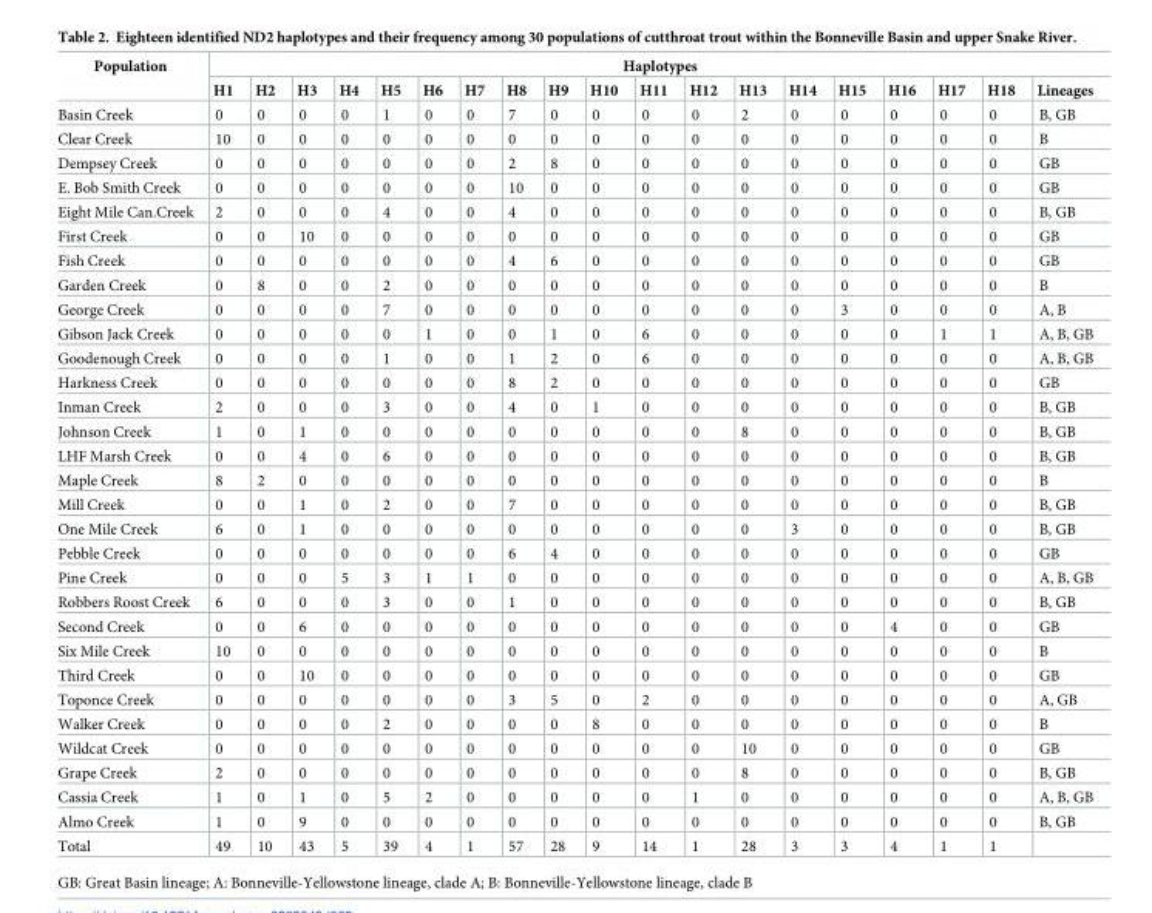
<table><thead><tr><td rowspan="2">Population</td><td colspan="19">Haplotypes</td></tr><tr><td>H1</td><td>H2</td><td>H3</td><td>H4</td><td>H5</td><td>H6</td><td>H7</td><td>H8</td><td>H9</td><td>H10</td><td>H11</td><td>H12</td><td>H13</td><td>H14</td><td>H15</td><td>H16</td><td>H17</td><td>H18</td><td>Lineages</td></tr></thead><tbody><tr><td>Basin Creek</td><td>0</td><td>0</td><td>0</td><td>0</td><td>1</td><td>0</td><td>0</td><td>7</td><td>0</td><td>0</td><td>0</td><td>0</td><td>2</td><td>0</td><td>0</td><td>0</td><td>0</td><td>0</td><td>B, GB</td></tr><tr><td>Clear Creek</td><td>10</td><td>0</td><td>0</td><td>0</td><td>0</td><td>0</td><td>0</td><td>0</td><td>0</td><td>0</td><td>0</td><td>0</td><td>0</td><td>0</td><td>0</td><td>0</td><td>0</td><td>0</td><td>B</td></tr><tr><td>Dempsey Creek</td><td>0</td><td>0</td><td>0</td><td>0</td><td>0</td><td>0</td><td>0</td><td>2</td><td>8</td><td>0</td><td>0</td><td>0</td><td>0</td><td>0</td><td>0</td><td>0</td><td>0</td><td>0</td><td>GB</td></tr><tr><td>E. Bob Smith Creek</td><td>0</td><td>0</td><td>0</td><td>0</td><td>0</td><td>0</td><td>0</td><td>10</td><td>0</td><td>0</td><td>0</td><td>0</td><td>0</td><td>0</td><td>0</td><td>0</td><td>0</td><td>0</td><td>GB</td></tr><tr><td>Eight Mile Can.Creek</td><td>2</td><td>0</td><td>0</td><td>0</td><td>4</td><td>0</td><td>0</td><td>4</td><td>0</td><td>0</td><td>0</td><td>0</td><td>0</td><td>0</td><td>0</td><td>0</td><td>0</td><td>0</td><td>B, GB</td></tr><tr><td>First Creek</td><td>0</td><td>0</td><td>10</td><td>0</td><td>0</td><td>0</td><td>0</td><td>0</td><td>0</td><td>0</td><td>0</td><td>0</td><td>0</td><td>0</td><td>0</td><td>0</td><td>0</td><td>0</td><td>GB</td></tr><tr><td>Fish Creek</td><td>0</td><td>0</td><td>0</td><td>0</td><td>0</td><td>0</td><td>0</td><td>4</td><td>6</td><td>0</td><td>0</td><td>0</td><td>0</td><td>0</td><td>0</td><td>0</td><td>0</td><td>0</td><td>GB</td></tr><tr><td>Garden Creek</td><td>0</td><td>8</td><td>0</td><td>0</td><td>2</td><td>0</td><td>0</td><td>0</td><td>0</td><td>0</td><td>0</td><td>0</td><td>0</td><td>0</td><td>0</td><td>0</td><td>0</td><td>0</td><td>B</td></tr><tr><td>George Creek</td><td>0</td><td>0</td><td>0</td><td>0</td><td>7</td><td>0</td><td>0</td><td>0</td><td>0</td><td>0</td><td>0</td><td>0</td><td>0</td><td>0</td><td>3</td><td>0</td><td>0</td><td>0</td><td>A, B</td></tr><tr><td>Gibson Jack Creek</td><td>0</td><td>0</td><td>0</td><td>0</td><td>0</td><td>1</td><td>0</td><td>0</td><td>1</td><td>0</td><td>6</td><td>0</td><td>0</td><td>0</td><td>0</td><td>0</td><td>1</td><td>1</td><td>A, B, GB</td></tr><tr><td>Goodenough Creek</td><td>0</td><td>0</td><td>0</td><td>0</td><td>1</td><td>0</td><td>0</td><td>1</td><td>2</td><td>0</td><td>6</td><td>0</td><td>0</td><td>0</td><td>0</td><td>0</td><td>0</td><td>0</td><td>A, B, GB</td></tr><tr><td>Harkness Creek</td><td>0</td><td>0</td><td>0</td><td>0</td><td>0</td><td>0</td><td>0</td><td>8</td><td>2</td><td>0</td><td>0</td><td>0</td><td>0</td><td>0</td><td>0</td><td>0</td><td>0</td><td>0</td><td>GB</td></tr><tr><td>Inman Creek</td><td>2</td><td>0</td><td>0</td><td>0</td><td>3</td><td>0</td><td>0</td><td>4</td><td>0</td><td>1</td><td>0</td><td>0</td><td>0</td><td>0</td><td>0</td><td>0</td><td>0</td><td>0</td><td>B, GB</td></tr><tr><td>Johnson Creek</td><td>1</td><td>0</td><td>1</td><td>0</td><td>0</td><td>0</td><td>0</td><td>0</td><td>0</td><td>0</td><td>0</td><td>0</td><td>8</td><td>0</td><td>0</td><td>0</td><td>0</td><td>0</td><td>B, GB</td></tr><tr><td>LHF Marsh Creek</td><td>0</td><td>0</td><td>4</td><td>0</td><td>6</td><td>0</td><td>0</td><td>0</td><td>0</td><td>0</td><td>0</td><td>0</td><td>0</td><td>0</td><td>0</td><td>0</td><td>0</td><td>0</td><td>B, GB</td></tr><tr><td>Maple Creek</td><td>8</td><td>2</td><td>0</td><td>0</td><td>0</td><td>0</td><td>0</td><td>0</td><td>0</td><td>0</td><td>0</td><td>0</td><td>0</td><td>0</td><td>0</td><td>0</td><td>0</td><td>0</td><td>B</td></tr><tr><td>Mill Creek</td><td>0</td><td>0</td><td>1</td><td>0</td><td>2</td><td>0</td><td>0</td><td>7</td><td>0</td><td>0</td><td>0</td><td>0</td><td>0</td><td>0</td><td>0</td><td>0</td><td>0</td><td>0</td><td>B, GB</td></tr><tr><td>One Mile Creek</td><td>6</td><td>0</td><td>1</td><td>0</td><td>0</td><td>0</td><td>0</td><td>0</td><td>0</td><td>0</td><td>0</td><td>0</td><td>0</td><td>3</td><td>0</td><td>0</td><td>0</td><td>0</td><td>B, GB</td></tr><tr><td>Pebble Creek</td><td>0</td><td>0</td><td>0</td><td>0</td><td>0</td><td>0</td><td>0</td><td>6</td><td>4</td><td>0</td><td>0</td><td>0</td><td>0</td><td>0</td><td>0</td><td>0</td><td>0</td><td>0</td><td>GB</td></tr><tr><td>Pine Creek</td><td>0</td><td>0</td><td>0</td><td>5</td><td>3</td><td>1</td><td>1</td><td>0</td><td>0</td><td>0</td><td>0</td><td>0</td><td>0</td><td>0</td><td>0</td><td>0</td><td>0</td><td>0</td><td>A, B, GB</td></tr><tr><td>Robbers Roost Creek</td><td>6</td><td>0</td><td>0</td><td>0</td><td>3</td><td>0</td><td>0</td><td>1</td><td>0</td><td>0</td><td>0</td><td>0</td><td>0</td><td>0</td><td>0</td><td>0</td><td>0</td><td>0</td><td>B, GB</td></tr><tr><td>Second Creek</td><td>0</td><td>0</td><td>6</td><td>0</td><td>0</td><td>0</td><td>0</td><td>0</td><td>0</td><td>0</td><td>0</td><td>0</td><td>0</td><td>0</td><td>0</td><td>4</td><td>0</td><td>0</td><td>GB</td></tr><tr><td>Six Mile Creek</td><td>10</td><td>0</td><td>0</td><td>0</td><td>0</td><td>0</td><td>0</td><td>0</td><td>0</td><td>0</td><td>0</td><td>0</td><td>0</td><td>0</td><td>0</td><td>0</td><td>0</td><td>0</td><td>B</td></tr><tr><td>Third Creek</td><td>0</td><td>0</td><td>10</td><td>0</td><td>0</td><td>0</td><td>0</td><td>0</td><td>0</td><td>0</td><td>0</td><td>0</td><td>0</td><td>0</td><td>0</td><td>0</td><td>0</td><td>0</td><td>GB</td></tr><tr><td>Toponce Creek</td><td>0</td><td>0</td><td>0</td><td>0</td><td>0</td><td>0</td><td>0</td><td>3</td><td>5</td><td>0</td><td>2</td><td>0</td><td>0</td><td>0</td><td>0</td><td>0</td><td>0</td><td>0</td><td>A, GB</td></tr><tr><td>Walker Creek</td><td>0</td><td>0</td><td>0</td><td>0</td><td>2</td><td>0</td><td>0</td><td>0</td><td>0</td><td>8</td><td>0</td><td>0</td><td>0</td><td>0</td><td>0</td><td>0</td><td>0</td><td>0</td><td>B</td></tr><tr><td>Wildcat Creek</td><td>0</td><td>0</td><td>0</td><td>0</td><td>0</td><td>0</td><td>0</td><td>0</td><td>0</td><td>0</td><td>0</td><td>0</td><td>10</td><td>0</td><td>0</td><td>0</td><td>0</td><td>0</td><td>GB</td></tr><tr><td>Grape Creek</td><td>2</td><td>0</td><td>0</td><td>0</td><td>0</td><td>0</td><td>0</td><td>0</td><td>0</td><td>0</td><td>0</td><td>0</td><td>8</td><td>0</td><td>0</td><td>0</td><td>0</td><td>0</td><td>B, GB</td></tr><tr><td>Cassia Creek</td><td>1</td><td>0</td><td>1</td><td>0</td><td>5</td><td>2</td><td>0</td><td>0</td><td>0</td><td>0</td><td>0</td><td>1</td><td>0</td><td>0</td><td>0</td><td>0</td><td>0</td><td>0</td><td>A, B, GB</td></tr><tr><td>Almo Creek</td><td>1</td><td>0</td><td>9</td><td>0</td><td>0</td><td>0</td><td>0</td><td>0</td><td>0</td><td>0</td><td>0</td><td>0</td><td>0</td><td>0</td><td>0</td><td>0</td><td>0</td><td>0</td><td>B, GB</td></tr><tr><td>Total</td><td>49</td><td>10</td><td>43</td><td>5</td><td>39</td><td>4</td><td>1</td><td>57</td><td>28</td><td>9</td><td>14</td><td>1</td><td>28</td><td>3</td><td>3</td><td>4</td><td>1</td><td>1</td><td></td></tr></tbody></table>